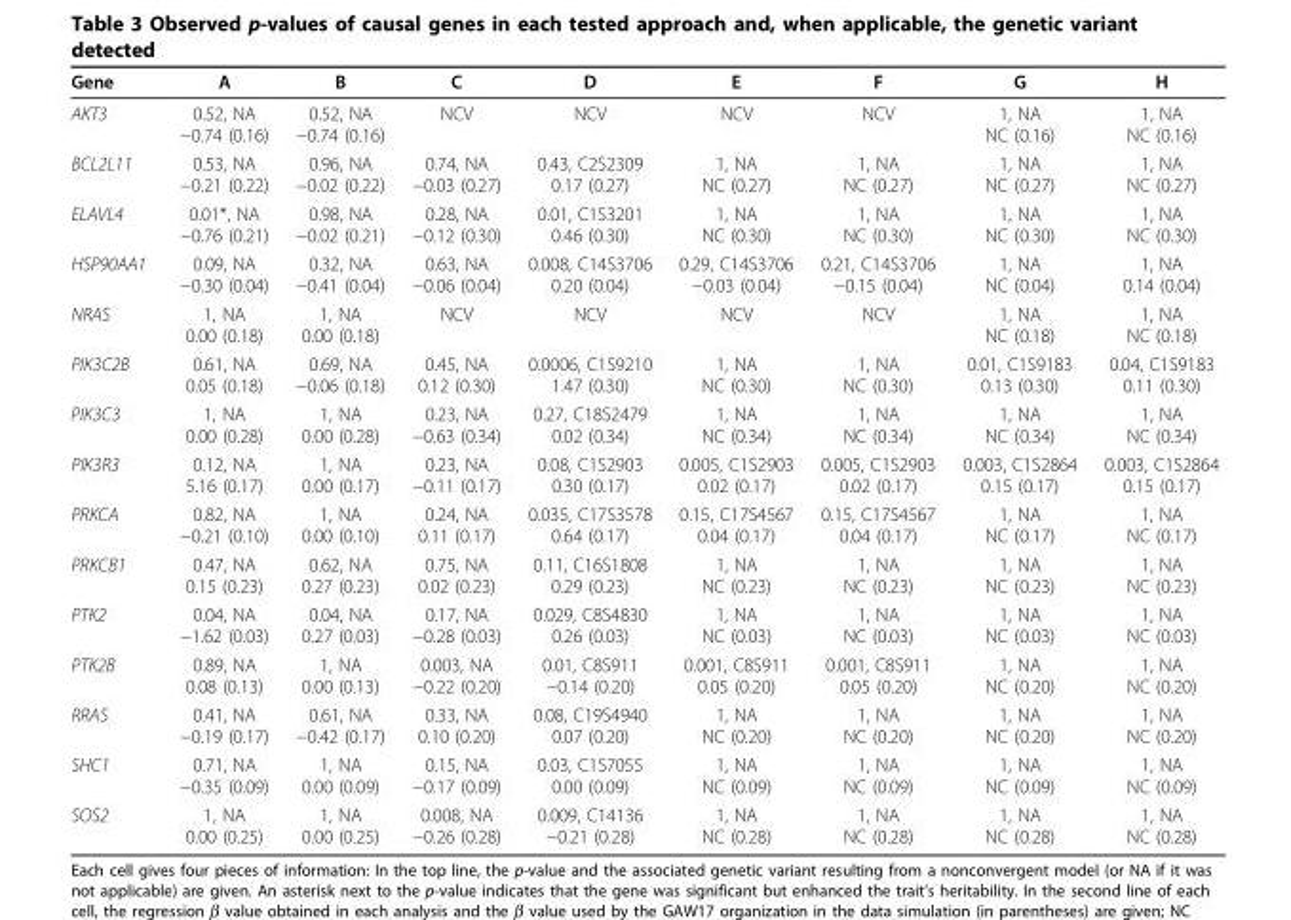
<table><thead><tr><td>Gene</td><td>A</td><td>B</td><td>C</td><td>D</td><td>E</td><td>F</td><td>G</td><td>H</td></tr></thead><tbody><tr><td>AKT3</td><td>0.52, NA −0.74 (0.16)</td><td>0.52, NA −0.74 (0.16)</td><td>NCV</td><td>NCV</td><td>NCV</td><td>NCV</td><td>1, NA NC (0.16)</td><td>1, NA NC (0.16)</td></tr><tr><td>BCL2L11</td><td>0.53, NA −0.21 (0.22)</td><td>0.96, NA −0.02 (0.22)</td><td>0.74, NA −0.03 (0.27)</td><td>0.43, C2S2309 0.17 (0.27)</td><td>1, NA NC (0.27)</td><td>1, NA NC (0.27)</td><td>1, NA NC (0.27)</td><td>1, NA NC (0.27)</td></tr><tr><td>ELAVL4</td><td>0.01*, NA −0.76 (0.21)</td><td>0.98, NA −0.02 (0.21)</td><td>0.28, NA −0.12 (0.30)</td><td>0.01, C1S3201 0.46 (0.30)</td><td>1, NA NC (0.30)</td><td>1, NA NC (0.30)</td><td>1, NA NC (0.30)</td><td>1, NA NC (0.30)</td></tr><tr><td>HSP90AA1</td><td>0.09, NA −0.30 (0.04)</td><td>0.32, NA −0.41 (0.04)</td><td>0.63, NA −0.06 (0.04)</td><td>0.008, C14S3706 0.20 (0.04)</td><td>0.29, C14S3706 −0.03 (0.04)</td><td>0.21, C14S3706 −0.15 (0.04)</td><td>1, NA NC (0.04)</td><td>1, NA 0.14 (0.04)</td></tr><tr><td>NRAS</td><td>1, NA 0.00 (0.18)</td><td>1, NA 0.00 (0.18)</td><td>NCV</td><td>NCV</td><td>NCV</td><td>NCV</td><td>1, NA NC (0.18)</td><td>1, NA NC (0.18)</td></tr><tr><td>PIK3C2B</td><td>0.61, NA 0.05 (0.18)</td><td>0.69, NA −0.06 (0.18)</td><td>0.45, NA 0.12 (0.30)</td><td>0.0006, C1S9210 1.47 (0.30)</td><td>1, NA NC (0.30)</td><td>1, NA NC (0.30)</td><td>0.01, C1S9183 0.13 (0.30)</td><td>0.04, C1S9183 0.11 (0.30)</td></tr><tr><td>PIK3C3</td><td>1, NA 0.00 (0.28)</td><td>1, NA 0.00 (0.28)</td><td>0.23, NA −0.63 (0.34)</td><td>0.27, C18S2479 0.02 (0.34)</td><td>1, NA NC (0.34)</td><td>1, NA NC (0.34)</td><td>1, NA NC (0.34)</td><td>1, NA NC (0.34)</td></tr><tr><td>PIK3R3</td><td>0.12, NA 5.16 (0.17)</td><td>1, NA 0.00 (0.17)</td><td>0.23, NA −0.11 (0.17)</td><td>0.08, C1S2903 0.30 (0.17)</td><td>0.005, C1S2903 0.02 (0.17)</td><td>0.005, C1S2903 0.02 (0.17)</td><td>0.003, C1S2864 0.15 (0.17)</td><td>0.003, C1S2864 0.15 (0.17)</td></tr><tr><td>PRKCA</td><td>0.82, NA −0.21 (0.10)</td><td>1, NA 0.00 (0.10)</td><td>0.24, NA 0.11 (0.17)</td><td>0.035, C17S3578 0.64 (0.17)</td><td>0.15, C17S4567 0.04 (0.17)</td><td>0.15, C17S4567 0.04 (0.17)</td><td>1, NA NC (0.17)</td><td>1, NA NC (0.17)</td></tr><tr><td>PRKCB1</td><td>0.47, NA 0.15 (0.23)</td><td>0.62, NA 0.27 (0.23)</td><td>0.75, NA 0.02 (0.23)</td><td>0.11, C16S1808 0.29 (0.23)</td><td>1, NA NC (0.23)</td><td>1, NA NC (0.23)</td><td>1, NA NC (0.23)</td><td>1, NA NC (0.23)</td></tr><tr><td>PTK2</td><td>0.04, NA −1.62 (0.03)</td><td>0.04, NA 0.27 (0.03)</td><td>0.17, NA −0.28 (0.03)</td><td>0.029, C8S4830 0.26 (0.03)</td><td>1, NA NC (0.03)</td><td>1, NA NC (0.03)</td><td>1, NA NC (0.03)</td><td>1, NA NC (0.03)</td></tr><tr><td>PTK2B</td><td>0.89, NA 0.08 (0.13)</td><td>1, NA 0.00 (0.13)</td><td>0.003, NA −0.22 (0.20)</td><td>0.01, C8S911 −0.14 (0.20)</td><td>0.001, C8S911 0.05 (0.20)</td><td>0.001, C8S911 0.05 (0.20)</td><td>1, NA NC (0.20)</td><td>1, NA NC (0.20)</td></tr><tr><td>RRAS</td><td>0.41, NA −0.19 (0.17)</td><td>0.61, NA −0.42 (0.17)</td><td>0.33, NA 0.10 (0.20)</td><td>0.08, C19S4940 0.07 (0.20)</td><td>1, NA NC (0.20)</td><td>1, NA NC (0.20)</td><td>1, NA NC (0.20)</td><td>1, NA NC (0.20)</td></tr><tr><td>SHC1</td><td>0.71, NA −0.35 (0.09)</td><td>1, NA 0.00 (0.09)</td><td>0.15, NA −0.17 (0.09)</td><td>0.03, C1S7055 0.00 (0.09)</td><td>1, NA NC (0.09)</td><td>1, NA NC (0.09)</td><td>1, NA NC (0.09)</td><td>1, NA NC (0.09)</td></tr><tr><td>SOS2</td><td>1, NA 0.00 (0.25)</td><td>1, NA 0.00 (0.25)</td><td>0.008, NA −0.26 (0.28)</td><td>0.009, C14136 −0.21 (0.28)</td><td>1, NA NC (0.28)</td><td>1, NA NC (0.28)</td><td>1, NA NC (0.28)</td><td>1, NA NC (0.28)</td></tr></tbody></table>